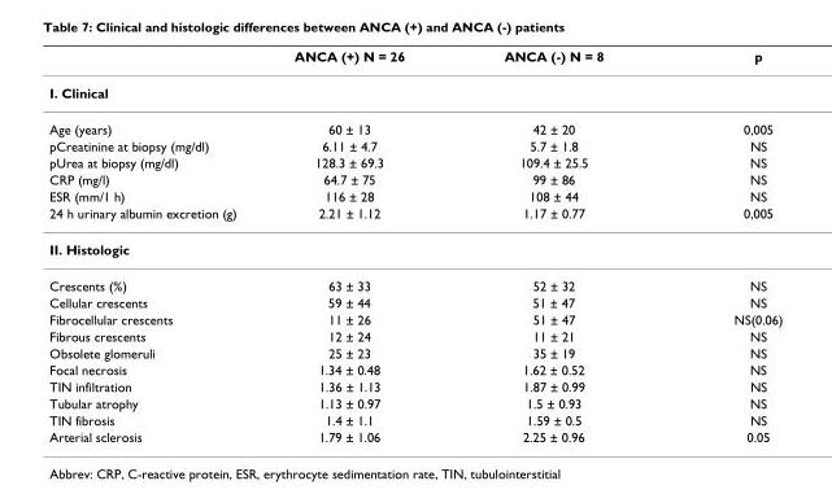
<table><thead><tr><td></td><td>ANCA (+) N = 26</td><td>ANCA (-) N = 8</td><td>p</td></tr></thead><tbody><tr><td colspan="4">I. Clinical</td></tr><tr><td>Age (years)</td><td>60 ± 13</td><td>42 ± 20</td><td>0,005</td></tr><tr><td>pCreatinine at biopsy (mg/dl)</td><td>6.11 ± 4.7</td><td>5.7 ± 1.8</td><td>NS</td></tr><tr><td>pUrea at biopsy (mg/dl)</td><td>128.3 ± 69.3</td><td>109.4 ± 25.5</td><td>NS</td></tr><tr><td>CRP (mg/l)</td><td>64.7 ± 75</td><td>99 ± 86</td><td>NS</td></tr><tr><td>ESR (mm/1 h)</td><td>116 ± 28</td><td>108 ± 44</td><td>NS</td></tr><tr><td>24 h urinary albumin excretion (g)</td><td>2.21 ± 1.12</td><td>1.17 ± 0.77</td><td>0,005</td></tr><tr><td colspan="4">II. Histologic</td></tr><tr><td>Crescents (%)</td><td>63 ± 33</td><td>52 ± 32</td><td>NS</td></tr><tr><td>Cellular crescents</td><td>59 ± 44</td><td>51 ± 47</td><td>NS</td></tr><tr><td>Fibrocellular crescents</td><td>11 ± 26</td><td>51 ± 47</td><td>NS(0.06)</td></tr><tr><td>Fibrous crescents</td><td>12 ± 24</td><td>11 ± 21</td><td>NS</td></tr><tr><td>Obsolete glomeruli</td><td>25 ± 23</td><td>35 ± 19</td><td>NS</td></tr><tr><td>Focal necrosis</td><td>1.34 ± 0.48</td><td>1.62 ± 0.52</td><td>NS</td></tr><tr><td>TIN infiltration</td><td>1.36 ± 1.13</td><td>1.87 ± 0.99</td><td>NS</td></tr><tr><td>Tubular atrophy</td><td>1.13 ± 0.97</td><td>1.5 ± 0.93</td><td>NS</td></tr><tr><td>TIN fibrosis</td><td>1.4 ± 1.1</td><td>1.59 ± 0.5</td><td>NS</td></tr><tr><td>Arterial sclerosis</td><td>1.79 ± 1.06</td><td>2.25 ± 0.96</td><td>0.05</td></tr></tbody></table>